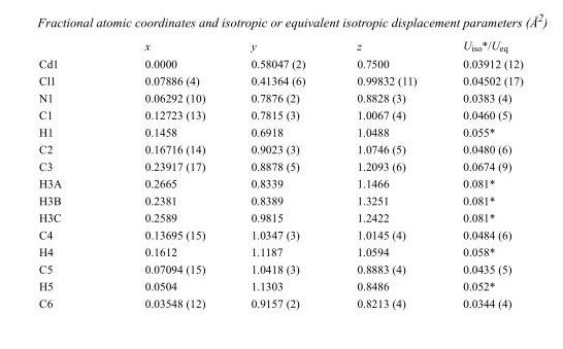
<table><thead><tr><td></td><td>x</td><td>y</td><td>z</td><td>U<sub>iso</sub>*/U<sub>eq</sub></td></tr></thead><tbody><tr><td>Cd1</td><td>0.0000</td><td>0.58047 (2)</td><td>0.7500</td><td>0.03912 (12)</td></tr><tr><td>Cl1</td><td>0.07886 (4)</td><td>0.41364 (6)</td><td>0.99832 (11)</td><td>0.04502 (17)</td></tr><tr><td>N1</td><td>0.06292 (10)</td><td>0.7876 (2)</td><td>0.8828 (3)</td><td>0.0383 (4)</td></tr><tr><td>C1</td><td>0.12723 (13)</td><td>0.7815 (3)</td><td>1.0067 (4)</td><td>0.0460 (5)</td></tr><tr><td>H1</td><td>0.1458</td><td>0.6918</td><td>1.0488</td><td>0.055*</td></tr><tr><td>C2</td><td>0.16716 (14)</td><td>0.9023 (3)</td><td>1.0746 (5)</td><td>0.0480 (6)</td></tr><tr><td>C3</td><td>0.23917 (17)</td><td>0.8878 (5)</td><td>1.2093 (6)</td><td>0.0674 (9)</td></tr><tr><td>H3A</td><td>0.2665</td><td>0.8339</td><td>1.1466</td><td>0.081*</td></tr><tr><td>H3B</td><td>0.2381</td><td>0.8389</td><td>1.3251</td><td>0.081*</td></tr><tr><td>H3C</td><td>0.2589</td><td>0.9815</td><td>1.2422</td><td>0.081*</td></tr><tr><td>C4</td><td>0.13695 (15)</td><td>1.0347 (3)</td><td>1.0145 (4)</td><td>0.0484 (6)</td></tr><tr><td>H4</td><td>0.1612</td><td>1.1187</td><td>1.0594</td><td>0.058*</td></tr><tr><td>C5</td><td>0.07094 (15)</td><td>1.0418 (3)</td><td>0.8883 (4)</td><td>0.0435 (5)</td></tr><tr><td>H5</td><td>0.0504</td><td>1.1303</td><td>0.8486</td><td>0.052*</td></tr><tr><td>C6</td><td>0.03548 (12)</td><td>0.9157 (2)</td><td>0.8213 (4)</td><td>0.0344 (4)</td></tr></tbody></table>